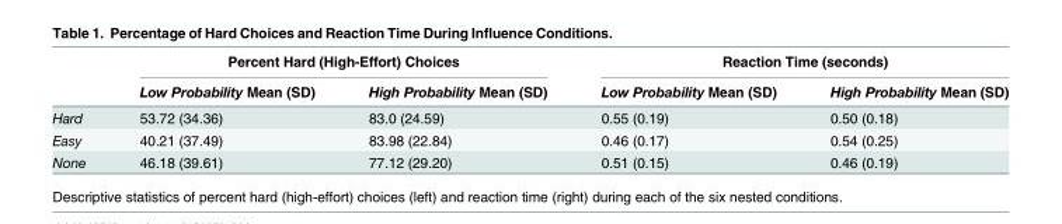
<table><thead><tr><td rowspan="2"></td><td colspan="2">Percent Hard (High-Effort) Choices</td><td colspan="2">Reaction Time (seconds)</td></tr><tr><td>Low Probability Mean (SD)</td><td>High Probability Mean (SD)</td><td>Low Probability Mean (SD)</td><td>High Probability Mean (SD)</td></tr></thead><tbody><tr><td>Hard</td><td>53.72 (34.36)</td><td>83.0 (24.59)</td><td>0.55 (0.19)</td><td>0.50 (0.18)</td></tr><tr><td>Easy</td><td>40.21 (37.49)</td><td>83.98 (22.84)</td><td>0.46 (0.17)</td><td>0.54 (0.25)</td></tr><tr><td>None</td><td>46.18 (39.61)</td><td>77.12 (29.20)</td><td>0.51 (0.15)</td><td>0.46 (0.19)</td></tr></tbody></table>